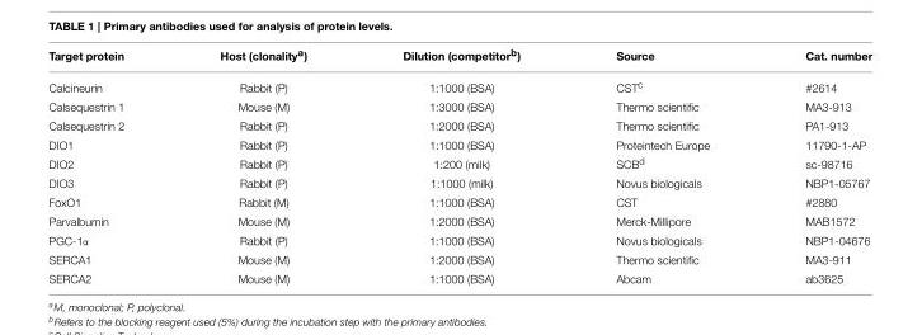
<table><thead><tr><td>Target protein</td><td>Host (clonality<sup>a</sup>)</td><td>Dilution (competitor<sup>b</sup>)</td><td>Source</td><td>Cat. number</td></tr></thead><tbody><tr><td>Calcineurin</td><td>Rabbit (P)</td><td>1:1000 (BSA)</td><td>CST<sup>c</sup></td><td>#2614</td></tr><tr><td>Calsequestrin 1</td><td>Mouse (M)</td><td>1:3000 (BSA)</td><td>Thermo scientific</td><td>MA3-913</td></tr><tr><td>Calsequestrin 2</td><td>Rabbit (P)</td><td>1:2000 (BSA)</td><td>Thermo scientific</td><td>PA1-913</td></tr><tr><td>DIO1</td><td>Rabbit (P)</td><td>1:1000 (BSA)</td><td>Proteintech Europe</td><td>11790-1-AP</td></tr><tr><td>DIO2</td><td>Rabbit (P)</td><td>1:200 (milk)</td><td>SCB<sup>d</sup></td><td>sc-98716</td></tr><tr><td>DIO3</td><td>Rabbit (P)</td><td>1:1000 (milk)</td><td>Novus biologicals</td><td>NBP1-05767</td></tr><tr><td>FoxO1</td><td>Rabbit (M)</td><td>1:1000 (BSA)</td><td>CST</td><td>#2880</td></tr><tr><td>Parvalbumin</td><td>Mouse (M)</td><td>1:2000 (BSA)</td><td>Merck-Millipore</td><td>MAB1572</td></tr><tr><td>PGC-1α</td><td>Rabbit (P)</td><td>1:1000 (BSA)</td><td>Novus biologicals</td><td>NBP1-04676</td></tr><tr><td>SERCA1</td><td>Mouse (M)</td><td>1:2000 (BSA)</td><td>Thermo scientific</td><td>MA3-911</td></tr><tr><td>SERCA2</td><td>Mouse (M)</td><td>1:1000 (BSA)</td><td>Abcam</td><td>ab3625</td></tr></tbody></table>